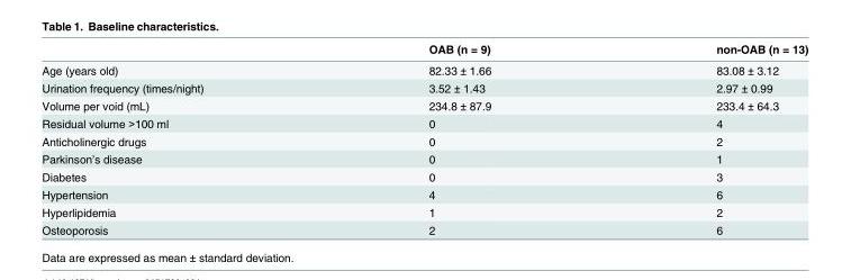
<table><thead><tr><td></td><td>OAB (n = 9)</td><td>non-OAB (n = 13)</td></tr></thead><tbody><tr><td>Age (years old)</td><td>82.33 ± 1.66</td><td>83.08 ± 3.12</td></tr><tr><td>Urination frequency (times/night)</td><td>3.52 ± 1.43</td><td>2.97 ± 0.99</td></tr><tr><td>Volume per void (mL)</td><td>234.8 ± 87.9</td><td>233.4 ± 64.3</td></tr><tr><td>Residual volume &gt;100 ml</td><td>0</td><td>4</td></tr><tr><td>Anticholinergic drugs</td><td>0</td><td>2</td></tr><tr><td>Parkinson’s disease</td><td>0</td><td>1</td></tr><tr><td>Diabetes</td><td>0</td><td>3</td></tr><tr><td>Hypertension</td><td>4</td><td>6</td></tr><tr><td>Hyperlipidemia</td><td>1</td><td>2</td></tr><tr><td>Osteoporosis</td><td>2</td><td>6</td></tr></tbody></table>